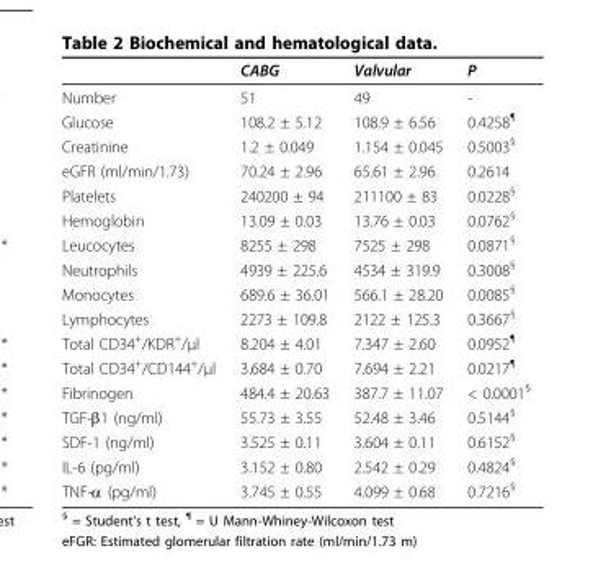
<table><thead><tr><td></td><td>CABG</td><td>Valvular</td><td>P</td></tr></thead><tbody><tr><td>Number</td><td>51</td><td>49</td><td>-</td></tr><tr><td>Glucose</td><td>108.2 ± 5.12</td><td>108.9 ± 6.56</td><td>0.4258<sup>¶</sup></td></tr><tr><td>Creatinine</td><td>1.2 ± 0.049</td><td>1.154 ± 0.045</td><td>0.5003<sup>§</sup></td></tr><tr><td>eGFR (ml/min/1.73)</td><td>70.24 ± 2.96</td><td>65.61 ± 2.96</td><td>0.2614</td></tr><tr><td>Platelets</td><td>240200 ± 94</td><td>211100 ± 83</td><td>0.0228<sup>§</sup></td></tr><tr><td>Hemoglobin</td><td>13.09 ± 0.03</td><td>13.76 ± 0.03</td><td>0.0762<sup>§</sup></td></tr><tr><td>Leucocytes</td><td>8255 ± 298</td><td>7525 ± 298</td><td>0.0871<sup>§</sup></td></tr><tr><td>Neutrophils</td><td>4939 ± 225.6</td><td>4534 ± 319.9</td><td>0.3008<sup>§</sup></td></tr><tr><td>Monocytes</td><td>689.6 ± 36.01</td><td>566.1 ± 28.20</td><td>0.0085<sup>§</sup></td></tr><tr><td>Lymphocytes</td><td>2273 ± 109.8</td><td>2122 ± 125.3</td><td>0.3667<sup>§</sup></td></tr><tr><td>Total CD34<sup>+</sup>/KDR<sup>+</sup>/μl</td><td>8.204 ± 4.01</td><td>7.347 ± 2.60</td><td>0.0952<sup>¶</sup></td></tr><tr><td>Total CD34<sup>+</sup>/CD144<sup>+</sup>/μl</td><td>3.684 ± 0.70</td><td>7.694 ± 2.21</td><td>0.0217<sup>¶</sup></td></tr><tr><td>Fibrinogen</td><td>484.4 ± 20.63</td><td>387.7 ± 11.07</td><td>&lt; 0.0001<sup>§</sup></td></tr><tr><td>TGF-β1 (ng/ml)</td><td>55.73 ± 3.55</td><td>52.48 ± 3.46</td><td>0.5144<sup>§</sup></td></tr><tr><td>SDF-1 (ng/ml)</td><td>3.525 ± 0.11</td><td>3.604 ± 0.11</td><td>0.6152<sup>§</sup></td></tr><tr><td>IL-6 (pg/ml)</td><td>3.152 ± 0.80</td><td>2.542 ± 0.29</td><td>0.4824<sup>§</sup></td></tr><tr><td>TNF-α (pg/ml)</td><td>3.745 ± 0.55</td><td>4.099 ± 0.68</td><td>0.7216<sup>§</sup></td></tr></tbody></table>